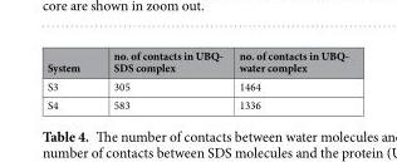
<table><thead><tr><td>System</td><td>no. of contacts in UBQ- SDS complex</td><td>no. of contacts in UBQ- water complex</td></tr></thead><tbody><tr><td>S3</td><td>305</td><td>1464</td></tr><tr><td>S4</td><td>583</td><td>1336</td></tr></tbody></table>